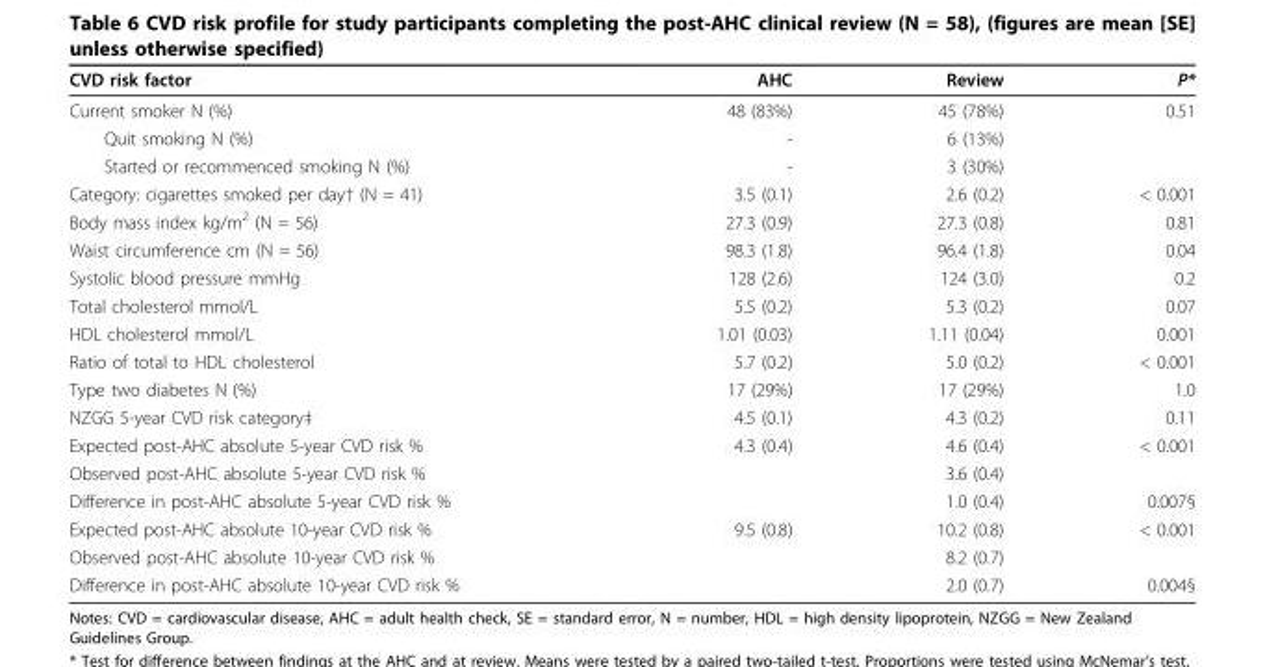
<table><thead><tr><td>CVD risk factor</td><td>AHC</td><td>Review</td><td>P*</td></tr></thead><tbody><tr><td>Current smoker N (%)</td><td>48 (83%)</td><td>45 (78%)</td><td>0.51</td></tr><tr><td>Quit smoking N (%)</td><td>-</td><td>6 (13%)</td><td></td></tr><tr><td>Started or recommenced smoking N (%)</td><td>-</td><td>3 (30%)</td><td></td></tr><tr><td>Category: cigarettes smoked per day† (N = 41)</td><td>3.5 (0.1)</td><td>2.6 (0.2)</td><td>&lt; 0.001</td></tr><tr><td>Body mass index kg/m<sup>2</sup> (N = 56)</td><td>27.3 (0.9)</td><td>27.3 (0.8)</td><td>0.81</td></tr><tr><td>Waist circumference cm (N = 56)</td><td>98.3 (1.8)</td><td>96.4 (1.8)</td><td>0.04</td></tr><tr><td>Systolic blood pressure mmHg</td><td>128 (2.6)</td><td>124 (3.0)</td><td>0.2</td></tr><tr><td>Total cholesterol mmol/L</td><td>5.5 (0.2)</td><td>5.3 (0.2)</td><td>0.07</td></tr><tr><td>HDL cholesterol mmol/L</td><td>1.01 (0.03)</td><td>1.11 (0.04)</td><td>0.001</td></tr><tr><td>Ratio of total to HDL cholesterol</td><td>5.7 (0.2)</td><td>5.0 (0.2)</td><td>&lt; 0.001</td></tr><tr><td>Type two diabetes N (%)</td><td>17 (29%)</td><td>17 (29%)</td><td>1.0</td></tr><tr><td>NZGG 5-year CVD risk category‡</td><td>4.5 (0.1)</td><td>4.3 (0.2)</td><td>0.11</td></tr><tr><td>Expected post-AHC absolute 5-year CVD risk %</td><td>4.3 (0.4)</td><td>4.6 (0.4)</td><td>&lt; 0.001</td></tr><tr><td>Observed post-AHC absolute 5-year CVD risk %</td><td></td><td>3.6 (0.4)</td><td></td></tr><tr><td>Difference in post-AHC absolute 5-year CVD risk %</td><td></td><td>1.0 (0.4)</td><td>0.007§</td></tr><tr><td>Expected post-AHC absolute 10-year CVD risk %</td><td>9.5 (0.8)</td><td>10.2 (0.8)</td><td>&lt; 0.001</td></tr><tr><td>Observed post-AHC absolute 10-year CVD risk %</td><td></td><td>8.2 (0.7)</td><td></td></tr><tr><td>Difference in post-AHC absolute 10-year CVD risk %</td><td></td><td>2.0 (0.7)</td><td>0.004§</td></tr></tbody></table>